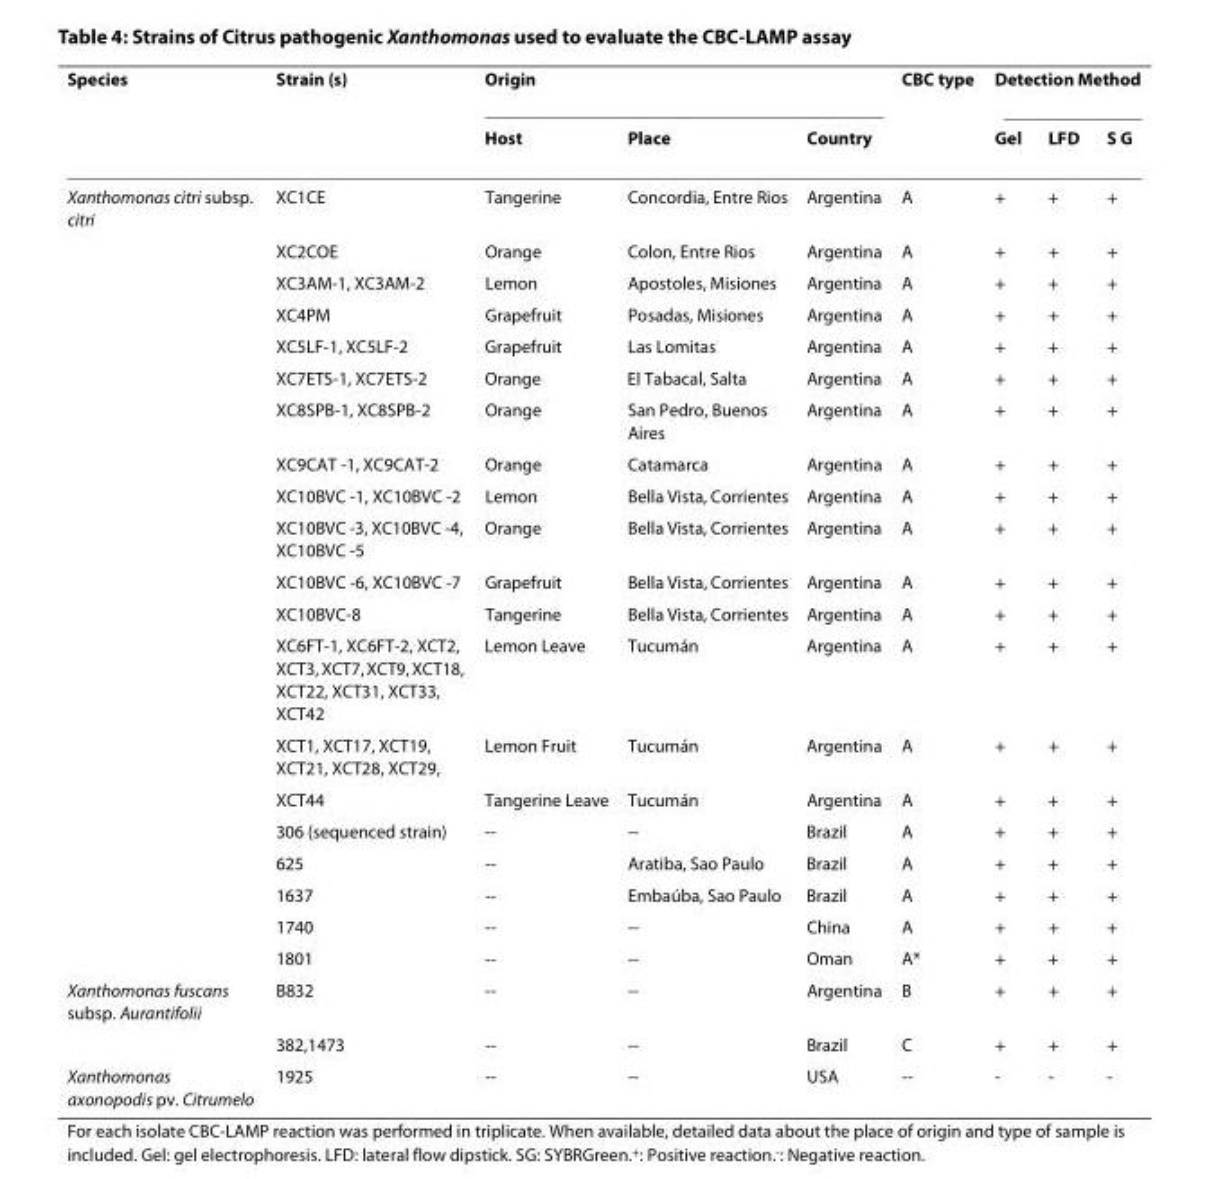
<table><thead><tr><td rowspan="2">Species</td><td rowspan="2">Strain (s)</td><td colspan="3">Origin</td><td rowspan="2">CBC type</td><td colspan="3">Detection Method</td></tr><tr><td>Host</td><td>Place</td><td>Country</td><td>Gel</td><td>LFD</td><td>S G</td></tr></thead><tbody><tr><td rowspan="20">Xanthomonas citri subsp. citri</td><td>XC1CE</td><td>Tangerine</td><td>Concordia, Entre Rios</td><td>Argentina</td><td>A</td><td>+</td><td>+</td><td>+</td></tr><tr><td>XC2COE</td><td>Orange</td><td>Colon, Entre Rios</td><td>Argentina</td><td>A</td><td>+</td><td>+</td><td>+</td></tr><tr><td>XC3AM-1, XC3AM-2</td><td>Lemon</td><td>Apostoles, Misiones</td><td>Argentina</td><td>A</td><td>+</td><td>+</td><td>+</td></tr><tr><td>XC4PM</td><td>Grapefruit</td><td>Posadas, Misiones</td><td>Argentina</td><td>A</td><td>+</td><td>+</td><td>+</td></tr><tr><td>XC5LF-1, XC5LF-2</td><td>Grapefruit</td><td>Las Lomitas</td><td>Argentina</td><td>A</td><td>+</td><td>+</td><td>+</td></tr><tr><td>XC7ETS-1, XC7ETS-2</td><td>Orange</td><td>El Tabacal, Salta</td><td>Argentina</td><td>A</td><td>+</td><td>+</td><td>+</td></tr><tr><td>XC8SPB-1, XC8SPB-2</td><td>Orange</td><td>San Pedro, Buenos Aires</td><td>Argentina</td><td>A</td><td>+</td><td>+</td><td>+</td></tr><tr><td>XC9CAT -1, XC9CAT-2</td><td>Orange</td><td>Catamarca</td><td>Argentina</td><td>A</td><td>+</td><td>+</td><td>+</td></tr><tr><td>XC10BVC -1, XC10BVC -2</td><td>Lemon</td><td>Bella Vista, Corrientes</td><td>Argentina</td><td>A</td><td>+</td><td>+</td><td>+</td></tr><tr><td>XC10BVC -3, XC10BVC -4, XC10BVC -5</td><td>Orange</td><td>Bella Vista, Corrientes</td><td>Argentina</td><td>A</td><td>+</td><td>+</td><td>+</td></tr><tr><td>XC10BVC -6, XC10BVC -7</td><td>Grapefruit</td><td>Bella Vista, Corrientes</td><td>Argentina</td><td>A</td><td>+</td><td>+</td><td>+</td></tr><tr><td>XC10BVC-8</td><td>Tangerine</td><td>Bella Vista, Corrientes</td><td>Argentina</td><td>A</td><td>+</td><td>+</td><td>+</td></tr><tr><td>XC6FT-1, XC6FT-2, XCT2, XCT3, XCT7, XCT9, XCT18, XCT22, XCT31, XCT33, XCT42</td><td>Lemon Leave</td><td>Tucumán</td><td>Argentina</td><td>A</td><td>+</td><td>+</td><td>+</td></tr><tr><td>XCT1, XCT17, XCT19, XCT21, XCT28, XCT29,</td><td>Lemon Fruit</td><td>Tucumán</td><td>Argentina</td><td>A</td><td>+</td><td>+</td><td>+</td></tr><tr><td>XCT44</td><td>Tangerine Leave</td><td>Tucumán</td><td>Argentina</td><td>A</td><td>+</td><td>+</td><td>+</td></tr><tr><td>306 (sequenced strain)</td><td>--</td><td>--</td><td>Brazil</td><td>A</td><td>+</td><td>+</td><td>+</td></tr><tr><td>625</td><td>--</td><td>Aratiba, Sao Paulo</td><td>Brazil</td><td>A</td><td>+</td><td>+</td><td>+</td></tr><tr><td>1637</td><td>--</td><td>Embaúba, Sao Paulo</td><td>Brazil</td><td>A</td><td>+</td><td>+</td><td>+</td></tr><tr><td>1740</td><td>--</td><td>--</td><td>China</td><td>A</td><td>+</td><td>+</td><td>+</td></tr><tr><td>1801</td><td>--</td><td>--</td><td>Oman</td><td>A*</td><td>+</td><td>+</td><td>+</td></tr><tr><td rowspan="2">Xanthomonas fuscans subsp. Aurantifolii</td><td>B832</td><td>--</td><td>--</td><td>Argentina</td><td>B</td><td>+</td><td>+</td><td>+</td></tr><tr><td>382,1473</td><td>--</td><td>--</td><td>Brazil</td><td>C</td><td>+</td><td>+</td><td>+</td></tr><tr><td>Xanthomonas axonopodis pv. Citrumelo</td><td>1925</td><td>--</td><td>--</td><td>USA</td><td>--</td><td>-</td><td>-</td><td>-</td></tr></tbody></table>